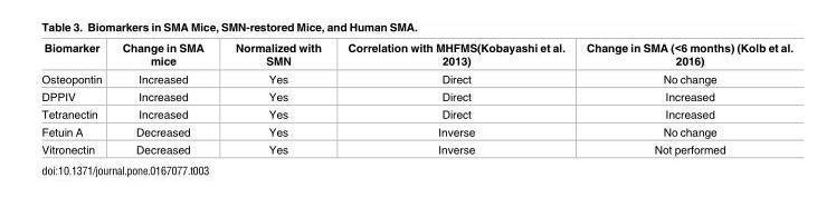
<table><thead><tr><td>Biomarker</td><td>Change in SMA mice</td><td>Normalized with SMN</td><td>Correlation with MHFMS(Kobayashi et al. 2013)</td><td>Change in SMA (&lt;6 months) (Kolb et al. 2016)</td></tr></thead><tbody><tr><td>Osteopontin</td><td>Increased</td><td>Yes</td><td>Direct</td><td>No change</td></tr><tr><td>DPPIV</td><td>Increased</td><td>Yes</td><td>Direct</td><td>Increased</td></tr><tr><td>Tetranectin</td><td>Increased</td><td>Yes</td><td>Direct</td><td>Increased</td></tr><tr><td>Fetuin A</td><td>Decreased</td><td>Yes</td><td>Inverse</td><td>No change</td></tr><tr><td>Vitronectin</td><td>Decreased</td><td>Yes</td><td>Inverse</td><td>Not performed</td></tr></tbody></table>